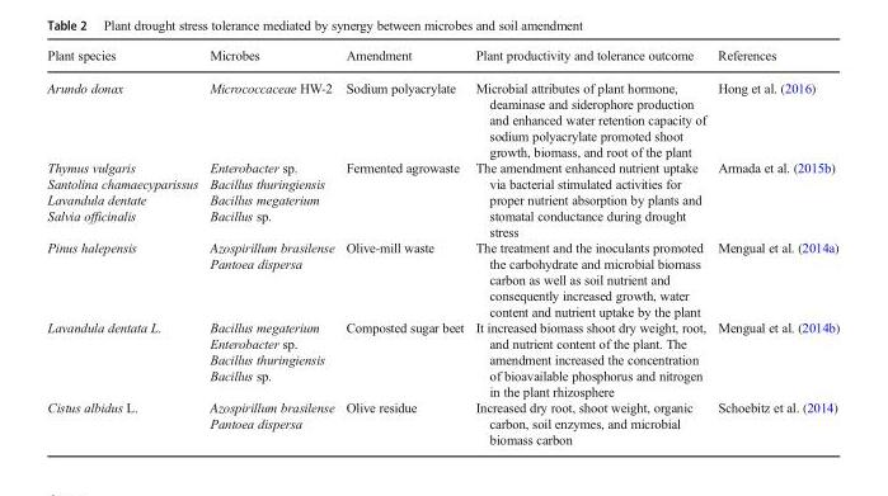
<table><thead><tr><td>Plant species</td><td>Microbes</td><td>Amendment</td><td>Plant productivity and tolerance outcome</td><td>References</td></tr></thead><tbody><tr><td>Arundo donax</td><td>Micrococcaceae HW-2</td><td>Sodium polyacrylate</td><td>Microbial attributes of plant hormone, deaminase and siderophore production and enhanced water retention capacity of sodium polyacrylate promoted shoot growth, biomass, and root of the plant</td><td>Hong et al. (2016)</td></tr><tr><td>Thymus vulgaris Santolina chamaecyparissus Lavandula dentate Salvia officinalis</td><td>Enterobacter sp. Bacillus thuringiensis Bacillus megaterium Bacillus sp.</td><td>Fermented agrowaste</td><td>The amendment enhanced nutrient uptake via bacterial stimulated activities for proper nutrient absorption by plants and stomatal conductance during drought stress</td><td>Armada et al. (2015b)</td></tr><tr><td>Pinus halepensis</td><td>Azospirillum brasilense Pantoea dispersa</td><td>Olive-mill waste</td><td>The treatment and the inoculants promoted the carbohydrate and microbial biomass carbon as well as soil nutrient and consequently increased growth, water content and nutrient uptake by the plant</td><td>Mengual et al. (2014a)</td></tr><tr><td>Lavandula dentata L.</td><td>Bacillus megaterium Enterobacter sp. Bacillus thuringiensis Bacillus sp.</td><td>Composted sugar beet</td><td>It increased biomass shoot dry weight, root, and nutrient content of the plant. The amendment increased the concentration of bioavailable phosphorus and nitrogen in the plant rhizosphere</td><td>Mengual et al. (2014b)</td></tr><tr><td>Cistus albidus L.</td><td>Azospirillum brasilense Pantoea dispersa</td><td>Olive residue</td><td>Increased dry root, shoot weight, organic carbon, soil enzymes, and microbial biomass carbon</td><td>Schoebitz et al. (2014)</td></tr></tbody></table>